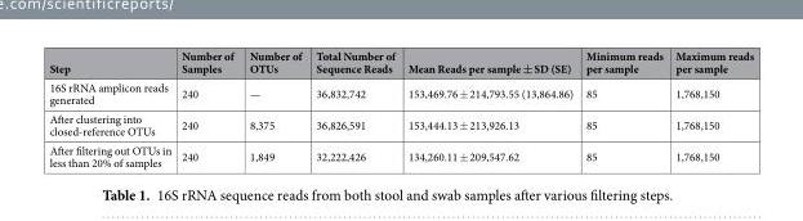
<table><thead><tr><td>Step</td><td>Number of Samples</td><td>Number of OTUs</td><td>Total Number of Sequence Reads</td><td>Mean Reads per sample ± SD (SE)</td><td>Minimum reads per sample</td><td>Maximum reads per sample</td></tr></thead><tbody><tr><td>16S rRNA amplicon reads generated</td><td>240</td><td>—</td><td>36,832,742</td><td>153,469.76 ± 214,793.55 (13,864.86)</td><td>85</td><td>1,768,150</td></tr><tr><td>After clustering into closed-reference OTUs</td><td>240</td><td>8,375</td><td>36,826,591</td><td>153,444.13 ± 213,926.13</td><td>85</td><td>1,768,150</td></tr><tr><td>After filtering out OTUs in less than 20% of samples</td><td>240</td><td>1,849</td><td>32,222,426</td><td>134,260.11 ± 209,547.62</td><td>85</td><td>1,768,150</td></tr></tbody></table>